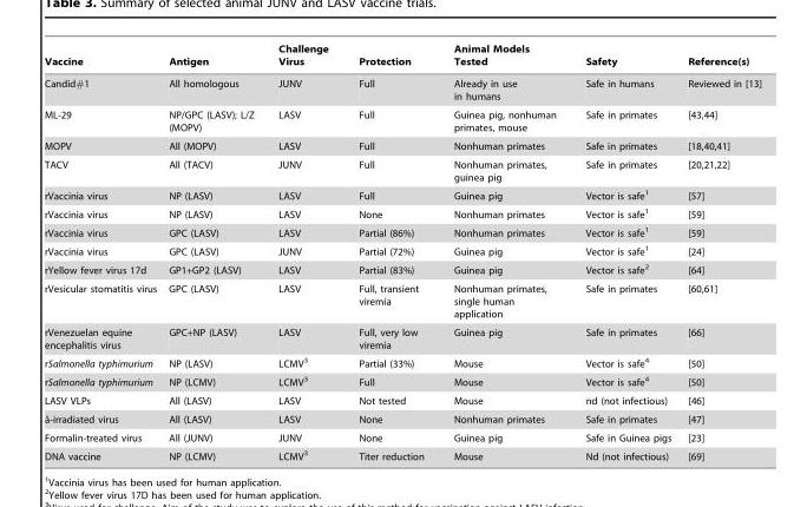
<table><thead><tr><td>Vaccine</td><td>Antigen</td><td>Challenge Virus</td><td>Protection</td><td>Animal Models Tested</td><td>Safety</td><td>Reference(s)</td></tr></thead><tbody><tr><td>Candid#1</td><td>All homologous</td><td>JUNV</td><td>Full</td><td>Already in use in humans</td><td>Safe in humans</td><td>Reviewed in [13]</td></tr><tr><td>ML-29</td><td>NP/GPC (LASV); L/Z (MOPV)</td><td>LASV</td><td>Full</td><td>Guinea pig, nonhuman primates, mouse</td><td>Safe in primates</td><td>[43,44]</td></tr><tr><td>MOPV</td><td>All (MOPV)</td><td>LASV</td><td>Full</td><td>Nonhuman primates</td><td>Safe in primates</td><td>[18,40,41]</td></tr><tr><td>TACV</td><td>All (TACV)</td><td>JUNV</td><td>Full</td><td>Nonhuman primates, guinea pig</td><td>Safe in primates</td><td>[20,21,22]</td></tr><tr><td>rVaccinia virus</td><td>NP (LASV)</td><td>LASV</td><td>Full</td><td>Guinea pig</td><td>Vector is safe<sup>1</sup></td><td>[57]</td></tr><tr><td>rVaccinia virus</td><td>NP (LASV)</td><td>LASV</td><td>None</td><td>Nonhuman primates</td><td>Vector is safe<sup>1</sup></td><td>[59]</td></tr><tr><td>rVaccinia virus</td><td>GPC (LASV)</td><td>LASV</td><td>Partial (86%)</td><td>Nonhuman primates</td><td>Vector is safe<sup>1</sup></td><td>[59]</td></tr><tr><td>rVaccinia virus</td><td>GPC (LASV)</td><td>JUNV</td><td>Partial (72%)</td><td>Guinea pig</td><td>Vector is safe<sup>1</sup></td><td>[24]</td></tr><tr><td>rYellow fever virus 17d</td><td>GP1+GP2 (LASV)</td><td>LASV</td><td>Partial (83%)</td><td>Guinea pig</td><td>Vector is safe<sup>2</sup></td><td>[64]</td></tr><tr><td>rVesicular stomatitis virus</td><td>GPC (LASV)</td><td>LASV</td><td>Full, transient viremia</td><td>Nonhuman primates, single human application</td><td>Safe in primates</td><td>[60,61]</td></tr><tr><td>rVenezuelan equine encephalitis virus</td><td>GPC+NP (LASV)</td><td>LASV</td><td>Full, very low viremia</td><td>Guinea pig</td><td>Safe in primates</td><td>[66]</td></tr><tr><td>rSalmonella typhimurium</td><td>NP (LASV)</td><td>LCMV<sup>3</sup></td><td>Partial (33%)</td><td>Mouse</td><td>Vector is safe<sup>4</sup></td><td>[50]</td></tr><tr><td>rSalmonella typhimurium</td><td>NP (LCMV)</td><td>LCMV<sup>3</sup></td><td>Full</td><td>Mouse</td><td>Vector is safe<sup>4</sup></td><td>[50]</td></tr><tr><td>LASV VLPs</td><td>All (LASV)</td><td>LASV</td><td>Not tested</td><td>Mouse</td><td>nd (not infectious)</td><td>[46]</td></tr><tr><td>a˜-irradiated virus</td><td>All (LASV)</td><td>LASV</td><td>None</td><td>Nonhuman primates</td><td>Safe in primates</td><td>[47]</td></tr><tr><td>Formalin-treated virus</td><td>All (JUNV)</td><td>JUNV</td><td>None</td><td>Guinea pig</td><td>Safe in Guinea pigs</td><td>[23]</td></tr><tr><td>DNA vaccine</td><td>NP (LCMV)</td><td>LCMV<sup>3</sup></td><td>Titer reduction</td><td>Mouse</td><td>Nd (not infectious)</td><td>[69]</td></tr></tbody></table>